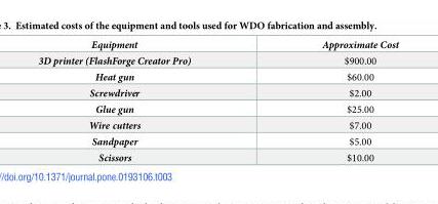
<table><thead><tr><td>Equipment</td><td>Approximate Cost</td></tr></thead><tbody><tr><td>3D printer (FlashForge Creator Pro)</td><td>$900.00</td></tr><tr><td>Heat gun</td><td>$60.00</td></tr><tr><td>Screwdriver</td><td>$2.00</td></tr><tr><td>Glue gun</td><td>$25.00</td></tr><tr><td>Wire cutters</td><td>$7.00</td></tr><tr><td>Sandpaper</td><td>$5.00</td></tr><tr><td>Scissors</td><td>$10.00</td></tr></tbody></table>